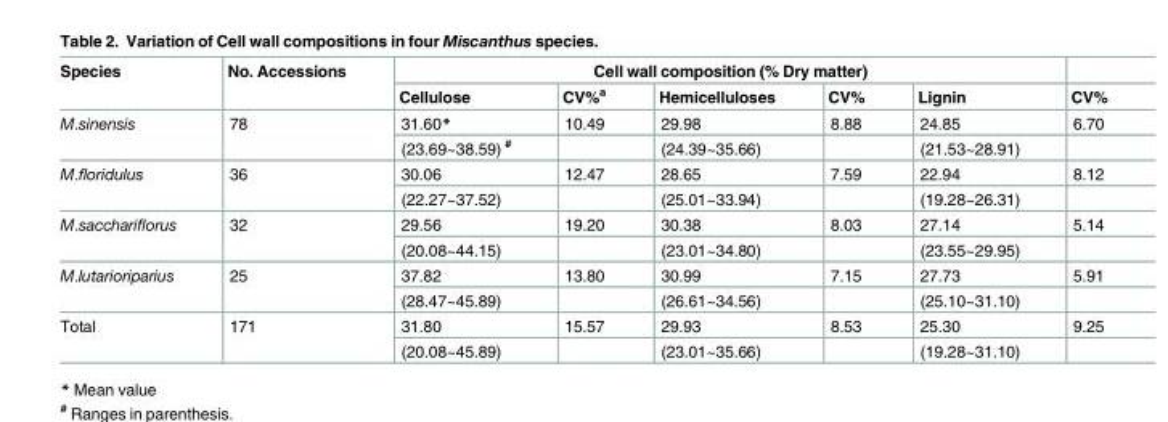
<table><thead><tr><td rowspan="2">Species</td><td rowspan="2">No. Accessions</td><td colspan="5">Cell wall composition (% Dry matter)</td><td rowspan="2">CV%</td></tr><tr><td>Cellulose</td><td>CV%<sup>a</sup></td><td>Hemicelluloses</td><td>CV%</td><td>Lignin</td></tr></thead><tbody><tr><td rowspan="2">M.sinensis</td><td rowspan="2">78</td><td>31.60*</td><td>10.49</td><td>29.98</td><td>8.88</td><td>24.85</td><td>6.70</td></tr><tr><td>(23.69~38.59) <sup>#</sup></td><td></td><td>(24.39~35.66)</td><td></td><td>(21.53~28.91)</td><td></td></tr><tr><td rowspan="2">M.floridulus</td><td rowspan="2">36</td><td>30.06</td><td>12.47</td><td>28.65</td><td>7.59</td><td>22.94</td><td>8.12</td></tr><tr><td>(22.27~37.52)</td><td></td><td>(25.01~33.94)</td><td></td><td>(19.28~26.31)</td><td></td></tr><tr><td rowspan="2">M.sacchariflorus</td><td rowspan="2">32</td><td>29.56</td><td>19.20</td><td>30.38</td><td>8.03</td><td>27.14</td><td>5.14</td></tr><tr><td>(20.08~44.15)</td><td></td><td>(23.01~34.80)</td><td></td><td>(23.55~29.95)</td><td></td></tr><tr><td rowspan="2">M.lutarioriparius</td><td rowspan="2">25</td><td>37.82</td><td>13.80</td><td>30.99</td><td>7.15</td><td>27.73</td><td>5.91</td></tr><tr><td>(28.47~45.89)</td><td></td><td>(26.61~34.56)</td><td></td><td>(25.10~31.10)</td><td></td></tr><tr><td rowspan="2">Total</td><td rowspan="2">171</td><td>31.80</td><td>15.57</td><td>29.93</td><td>8.53</td><td>25.30</td><td>9.25</td></tr><tr><td>(20.08~45.89)</td><td></td><td>(23.01~35.66)</td><td></td><td>(19.28~31.10)</td><td></td></tr></tbody></table>